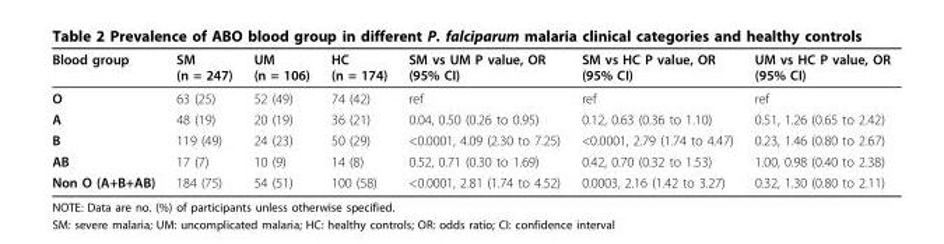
<table><thead><tr><td>Blood group</td><td>SM (n = 247)</td><td>UM (n = 106)</td><td>HC (n = 174)</td><td>SM vs UM P value, OR (95% CI)</td><td>SM vs HC P value, OR (95% CI)</td><td>UM vs HC P value, OR (95% CI)</td></tr></thead><tbody><tr><td>O</td><td>63 (25)</td><td>52 (49)</td><td>74 (42)</td><td>ref</td><td>ref</td><td>ref</td></tr><tr><td>A</td><td>48 (19)</td><td>20 (19)</td><td>36 (21)</td><td>0.04, 0.50 (0.26 to 0.95)</td><td>0.12, 0.63 (0.36 to 1.10)</td><td>0.51, 1.26 (0.65 to 2.42)</td></tr><tr><td>B</td><td>119 (49)</td><td>24 (23)</td><td>50 (29)</td><td>&lt;0.0001, 4.09 (2.30 to 7.25)</td><td>&lt;0.0001, 2.79 (1.74 to 4.47)</td><td>0.23, 1.46 (0.80 to 2.67)</td></tr><tr><td>AB</td><td>17 (7)</td><td>10 (9)</td><td>14 (8)</td><td>0.52, 0.71 (0.30 to 1.69)</td><td>0.42, 0.70 (0.32 to 1.53)</td><td>1.00, 0.98 (0.40 to 2.38)</td></tr><tr><td>Non O (A+B+AB)</td><td>184 (75)</td><td>54 (51)</td><td>100 (58)</td><td>&lt;0.0001, 2.81 (1.74 to 4.52)</td><td>0.0003, 2.16 (1.42 to 3.27)</td><td>0.32, 1.30 (0.80 to 2.11)</td></tr></tbody></table>